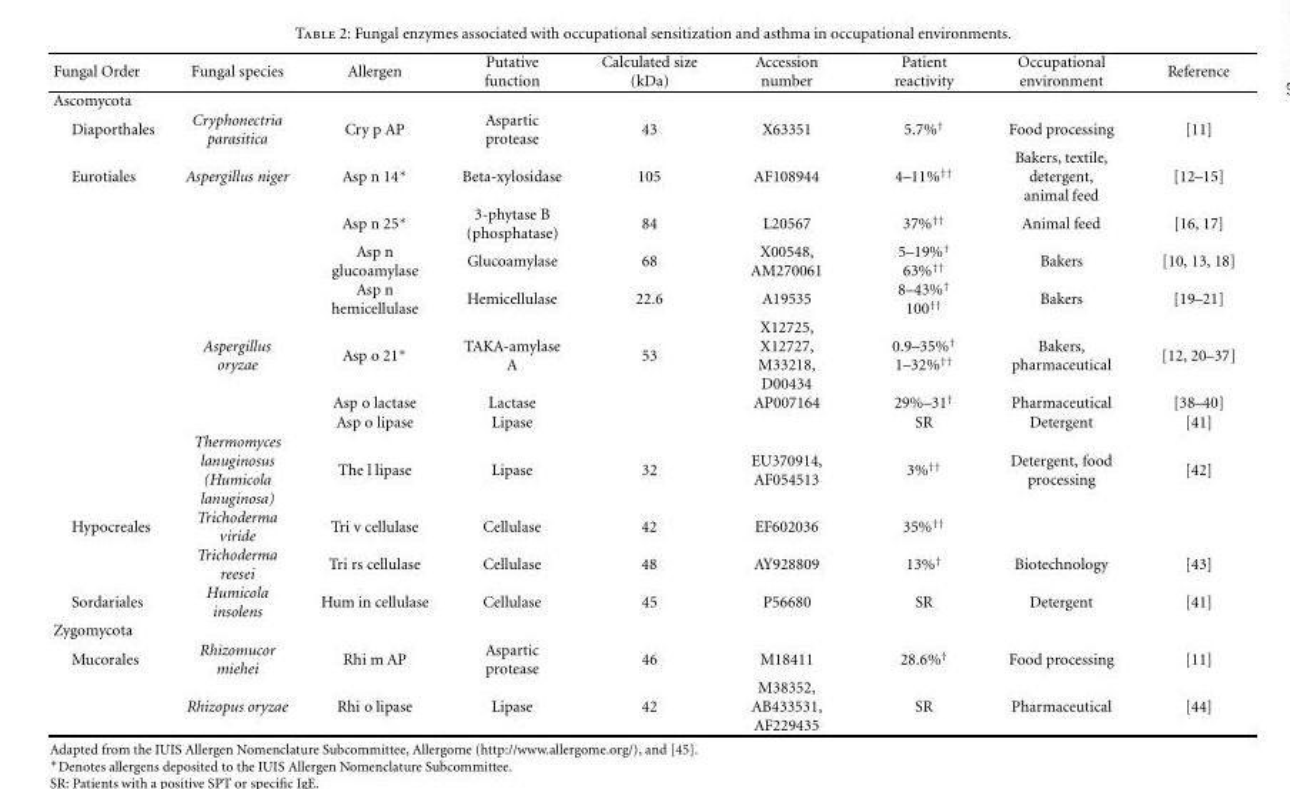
<table><thead><tr><td>Fungal Order</td><td>Fungal species</td><td>Allergen</td><td>Putative function</td><td>Calculated size (kDa)</td><td>Accession number</td><td>Patient reactivity</td><td>Occupational environment</td><td>Reference</td></tr></thead><tbody><tr><td colspan="9">Ascomycota</td></tr><tr><td>Diaporthales</td><td>Cryphonectria parasitica</td><td>Cry p AP</td><td>Aspartic protease</td><td>43</td><td>X63351</td><td>5.7%<sup>†</sup></td><td>Food processing</td><td>[11]</td></tr><tr><td rowspan="8">Eurotiales</td><td>Aspergillus niger</td><td>Asp n 14∗</td><td>Beta-xylosidase</td><td>105</td><td>AF108944</td><td>4–11%<sup>††</sup></td><td>Bakers, textile, detergent, animal feed</td><td>[12–15]</td></tr><tr><td></td><td>Asp n 25∗</td><td>3-phytase B (phosphatase)</td><td>84</td><td>L20567</td><td>37%<sup>††</sup></td><td>Animal feed</td><td>[16, 17]</td></tr><tr><td></td><td>Asp n glucoamylase</td><td>Glucoamylase</td><td>68</td><td>X00548, AM270061</td><td>5–19%<sup>†</sup> 63%<sup>††</sup></td><td>Bakers</td><td>[10, 13, 18]</td></tr><tr><td></td><td>Asp n hemicellulase</td><td>Hemicellulase</td><td>22.6</td><td>A19535</td><td>8–43%<sup>†</sup> 100<sup>††</sup></td><td>Bakers</td><td>[19–21]</td></tr><tr><td>Aspergillus oryzae</td><td>Asp o 21∗</td><td>TAKA-amylase A</td><td>53</td><td>X12725, X12727, M33218, D00434</td><td>0.9–35%<sup>†</sup> 1–32%<sup>††</sup></td><td>Bakers, pharmaceutical</td><td>[12, 20–37]</td></tr><tr><td></td><td>Asp o lactase</td><td>Lactase</td><td></td><td>AP007164</td><td>29%–31<sup>†</sup></td><td>Pharmaceutical</td><td>[38–40]</td></tr><tr><td></td><td>Asp o lipase</td><td>Lipase</td><td></td><td></td><td>SR</td><td>Detergent</td><td>[41]</td></tr><tr><td>Thermomyces lanuginosus (Humicola lanuginosa)</td><td>The l lipase</td><td>Lipase</td><td>32</td><td>EU370914, AF054513</td><td>3%<sup>††</sup></td><td>Detergent, food processing</td><td>[42]</td></tr><tr><td rowspan="2">Hypocreales</td><td>Trichoderma viride</td><td>Tri v cellulase</td><td>Cellulase</td><td>42</td><td>EF602036</td><td>35%<sup>††</sup></td><td></td><td></td></tr><tr><td>Trichoderma reesei</td><td>Tri rs cellulase</td><td>Cellulase</td><td>48</td><td>AY928809</td><td>13%<sup>†</sup></td><td>Biotechnology</td><td>[43]</td></tr><tr><td>Sordariales</td><td>Humicola insolens</td><td>Hum in cellulase</td><td>Cellulase</td><td>45</td><td>P56680</td><td>SR</td><td>Detergent</td><td>[41]</td></tr><tr><td colspan="9">Zygomycota</td></tr><tr><td rowspan="2">Mucorales</td><td>Rhizomucor miehei</td><td>Rhi m AP</td><td>Aspartic protease</td><td>46</td><td>M18411</td><td>28.6%<sup>†</sup></td><td>Food processing</td><td>[11]</td></tr><tr><td>Rhizopus oryzae</td><td>Rhi o lipase</td><td>Lipase</td><td>42</td><td>M38352, AB433531, AF229435</td><td>SR</td><td>Pharmaceutical</td><td>[44]</td></tr></tbody></table>